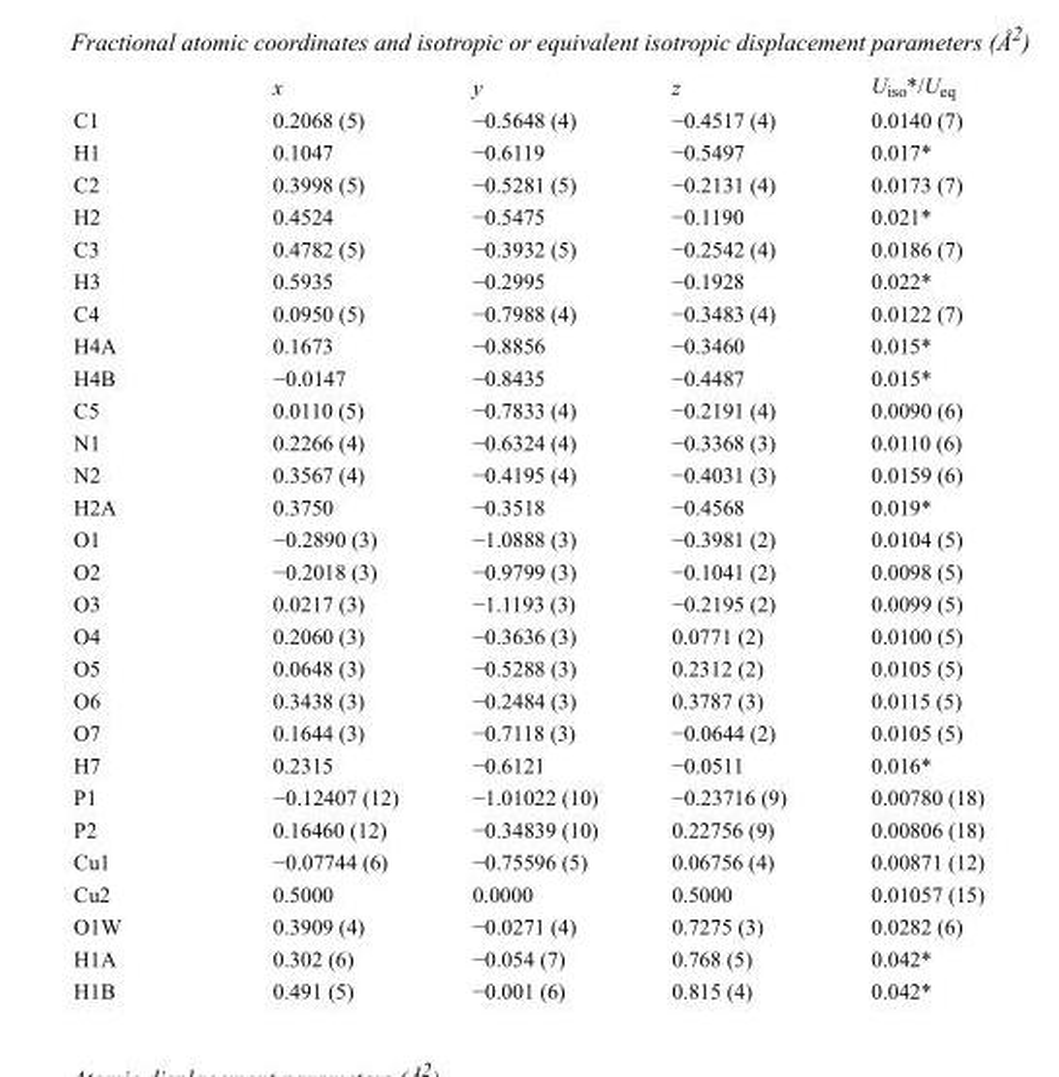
<table><thead><tr><td></td><td>x</td><td>y</td><td>z</td><td>U<sub>iso</sub>*/U<sub>eq</sub></td></tr></thead><tbody><tr><td>C1</td><td>0.2068 (5)</td><td>−0.5648 (4)</td><td>−0.4517 (4)</td><td>0.0140 (7)</td></tr><tr><td>H1</td><td>0.1047</td><td>−0.6119</td><td>−0.5497</td><td>0.017*</td></tr><tr><td>C2</td><td>0.3998 (5)</td><td>−0.5281 (5)</td><td>−0.2131 (4)</td><td>0.0173 (7)</td></tr><tr><td>H2</td><td>0.4524</td><td>−0.5475</td><td>−0.1190</td><td>0.021*</td></tr><tr><td>C3</td><td>0.4782 (5)</td><td>−0.3932 (5)</td><td>−0.2542 (4)</td><td>0.0186 (7)</td></tr><tr><td>H3</td><td>0.5935</td><td>−0.2995</td><td>−0.1928</td><td>0.022*</td></tr><tr><td>C4</td><td>0.0950 (5)</td><td>−0.7988 (4)</td><td>−0.3483 (4)</td><td>0.0122 (7)</td></tr><tr><td>H4A</td><td>0.1673</td><td>−0.8856</td><td>−0.3460</td><td>0.015*</td></tr><tr><td>H4B</td><td>−0.0147</td><td>−0.8435</td><td>−0.4487</td><td>0.015*</td></tr><tr><td>C5</td><td>0.0110 (5)</td><td>−0.7833 (4)</td><td>−0.2191 (4)</td><td>0.0090 (6)</td></tr><tr><td>N1</td><td>0.2266 (4)</td><td>−0.6324 (4)</td><td>−0.3368 (3)</td><td>0.0110 (6)</td></tr><tr><td>N2</td><td>0.3567 (4)</td><td>−0.4195 (4)</td><td>−0.4031 (3)</td><td>0.0159 (6)</td></tr><tr><td>H2A</td><td>0.3750</td><td>−0.3518</td><td>−0.4568</td><td>0.019*</td></tr><tr><td>O1</td><td>−0.2890 (3)</td><td>−1.0888 (3)</td><td>−0.3981 (2)</td><td>0.0104 (5)</td></tr><tr><td>O2</td><td>−0.2018 (3)</td><td>−0.9799 (3)</td><td>−0.1041 (2)</td><td>0.0098 (5)</td></tr><tr><td>O3</td><td>0.0217 (3)</td><td>−1.1193 (3)</td><td>−0.2195 (2)</td><td>0.0099 (5)</td></tr><tr><td>O4</td><td>0.2060 (3)</td><td>−0.3636 (3)</td><td>0.0771 (2)</td><td>0.0100 (5)</td></tr><tr><td>O5</td><td>0.0648 (3)</td><td>−0.5288 (3)</td><td>0.2312 (2)</td><td>0.0105 (5)</td></tr><tr><td>O6</td><td>0.3438 (3)</td><td>−0.2484 (3)</td><td>0.3787 (3)</td><td>0.0115 (5)</td></tr><tr><td>O7</td><td>0.1644 (3)</td><td>−0.7118 (3)</td><td>−0.0644 (2)</td><td>0.0105 (5)</td></tr><tr><td>H7</td><td>0.2315</td><td>−0.6121</td><td>−0.0511</td><td>0.016*</td></tr><tr><td>P1</td><td>−0.12407 (12)</td><td>−1.01022 (10)</td><td>−0.23716 (9)</td><td>0.00780 (18)</td></tr><tr><td>P2</td><td>0.16460 (12)</td><td>−0.34839 (10)</td><td>0.22756 (9)</td><td>0.00806 (18)</td></tr><tr><td>Cu1</td><td>−0.07744 (6)</td><td>−0.75596 (5)</td><td>0.06756 (4)</td><td>0.00871 (12)</td></tr><tr><td>Cu2</td><td>0.5000</td><td>0.0000</td><td>0.5000</td><td>0.01057 (15)</td></tr><tr><td>O1W</td><td>0.3909 (4)</td><td>−0.0271 (4)</td><td>0.7275 (3)</td><td>0.0282 (6)</td></tr><tr><td>H1A</td><td>0.302 (6)</td><td>−0.054 (7)</td><td>0.768 (5)</td><td>0.042*</td></tr><tr><td>H1B</td><td>0.491 (5)</td><td>−0.001 (6)</td><td>0.815 (4)</td><td>0.042*</td></tr></tbody></table>